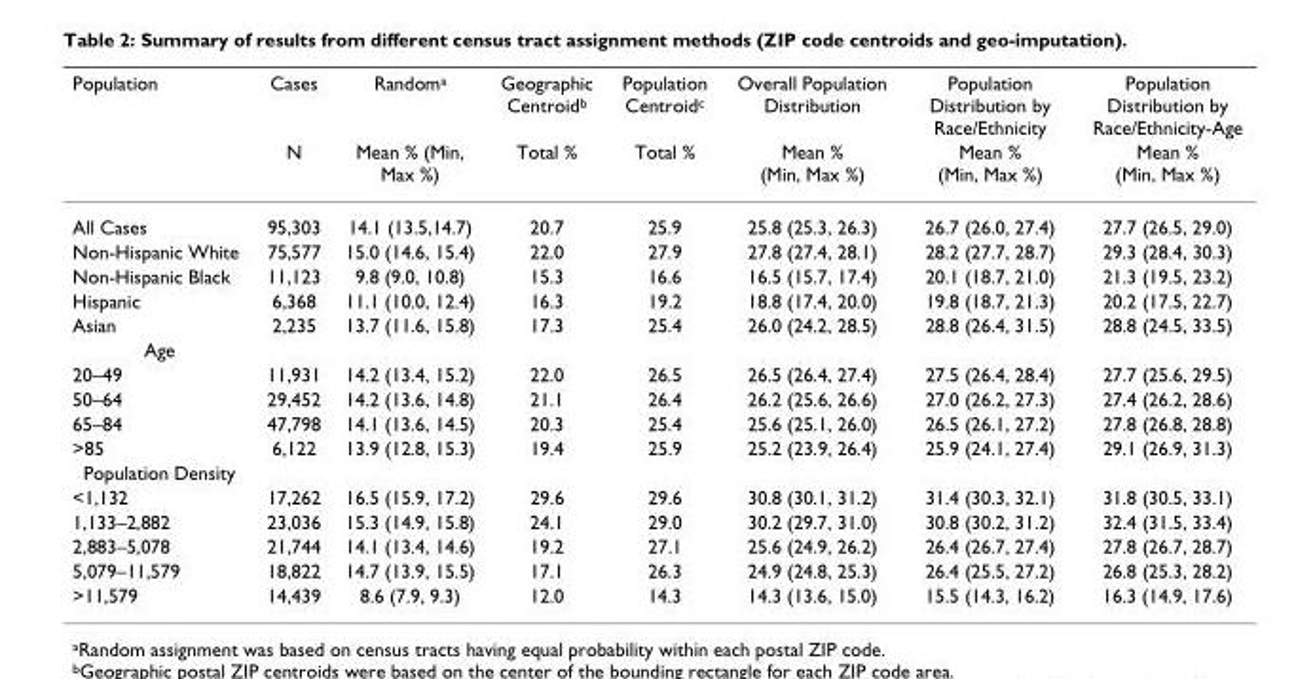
<table><thead><tr><td rowspan="2">Population</td><td rowspan="2">Cases N</td><td rowspan="2">Random<sup>a</sup> Mean % (Min, Max %)</td><td rowspan="2">Geographic Centroid<sup>b</sup> Total %</td><td rowspan="2">Population Centroid<sup>c</sup> Total %</td><td rowspan="2">Overall Population Distribution Mean % (Min, Max %)</td><td rowspan="2">Population Distribution by Race/Ethnicity Mean % (Min, Max %)</td><td rowspan="2">Population Distribution by Race/Ethnicity-Age Mean % (Min, Max %)</td></tr><tr></tr></thead><tbody><tr><td>All Cases</td><td>95,303</td><td>14.1 (13.5,14.7)</td><td>20.7</td><td>25.9</td><td>25.8 (25.3, 26.3)</td><td>26.7 (26.0, 27.4)</td><td>27.7 (26.5, 29.0)</td></tr><tr><td>Non-Hispanic White</td><td>75,577</td><td>15.0 (14.6, 15.4)</td><td>22.0</td><td>27.9</td><td>27.8 (27.4, 28.1)</td><td>28.2 (27.7, 28.7)</td><td>29.3 (28.4, 30.3)</td></tr><tr><td>Non-Hispanic Black</td><td>11,123</td><td>9.8 (9.0, 10.8)</td><td>15.3</td><td>16.6</td><td>16.5 (15.7, 17.4)</td><td>20.1 (18.7, 21.0)</td><td>21.3 (19.5, 23.2)</td></tr><tr><td>Hispanic</td><td>6,368</td><td>11.1 (10.0, 12.4)</td><td>16.3</td><td>19.2</td><td>18.8 (17.4, 20.0)</td><td>19.8 (18.7, 21.3)</td><td>20.2 (17.5, 22.7)</td></tr><tr><td>Asian</td><td>2,235</td><td>13.7 (11.6, 15.8)</td><td>17.3</td><td>25.4</td><td>26.0 (24.2, 28.5)</td><td>28.8 (26.4, 31.5)</td><td>28.8 (24.5, 33.5)</td></tr><tr><td colspan="8">Age</td></tr><tr><td>20–49</td><td>11,931</td><td>14.2 (13.4, 15.2)</td><td>22.0</td><td>26.5</td><td>26.5 (26.4, 27.4)</td><td>27.5 (26.4, 28.4)</td><td>27.7 (25.6, 29.5)</td></tr><tr><td>50–64</td><td>29,452</td><td>14.2 (13.6, 14.8)</td><td>21.1</td><td>26.4</td><td>26.2 (25.6, 26.6)</td><td>27.0 (26.2, 27.3)</td><td>27.4 (26.2, 28.6)</td></tr><tr><td>65–84</td><td>47,798</td><td>14.1 (13.6, 14.5)</td><td>20.3</td><td>25.4</td><td>25.6 (25.1, 26.0)</td><td>26.5 (26.1, 27.2)</td><td>27.8 (26.8, 28.8)</td></tr><tr><td>&gt;85</td><td>6,122</td><td>13.9 (12.8, 15.3)</td><td>19.4</td><td>25.9</td><td>25.2 (23.9, 26.4)</td><td>25.9 (24.1, 27.4)</td><td>29.1 (26.9, 31.3)</td></tr><tr><td colspan="8">Population Density</td></tr><tr><td>&lt;1,132</td><td>17,262</td><td>16.5 (15.9, 17.2)</td><td>29.6</td><td>29.6</td><td>30.8 (30.1, 31.2)</td><td>31.4 (30.3, 32.1)</td><td>31.8 (30.5, 33.1)</td></tr><tr><td>1,133–2,882</td><td>23,036</td><td>15.3 (14.9, 15.8)</td><td>24.1</td><td>29.0</td><td>30.2 (29.7, 31.0)</td><td>30.8 (30.2, 31.2)</td><td>32.4 (31.5, 33.4)</td></tr><tr><td>2,883–5,078</td><td>21,744</td><td>14.1 (13.4, 14.6)</td><td>19.2</td><td>27.1</td><td>25.6 (24.9, 26.2)</td><td>26.4 (26.7, 27.4)</td><td>27.8 (26.7, 28.7)</td></tr><tr><td>5,079–11,579</td><td>18,822</td><td>14.7 (13.9, 15.5)</td><td>17.1</td><td>26.3</td><td>24.9 (24.8, 25.3)</td><td>26.4 (25.5, 27.2)</td><td>26.8 (25.3, 28.2)</td></tr><tr><td>&gt;11,579</td><td>14,439</td><td>8.6 (7.9, 9.3)</td><td>12.0</td><td>14.3</td><td>14.3 (13.6, 15.0)</td><td>15.5 (14.3, 16.2)</td><td>16.3 (14.9, 17.6)</td></tr></tbody></table>